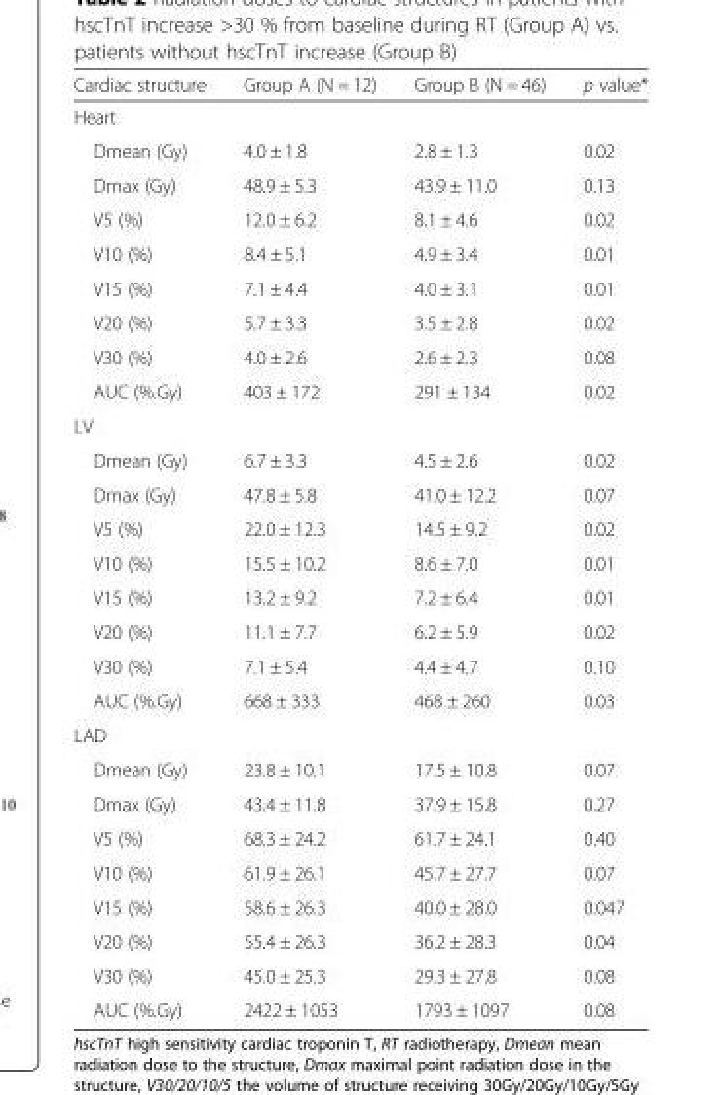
<table><thead><tr><td>Cardiac structure</td><td>Group A (N = 12)</td><td>Group B (N = 46)</td><td>p value*</td></tr></thead><tbody><tr><td colspan="4">Heart</td></tr><tr><td>Dmean (Gy)</td><td>4.0 ± 1.8</td><td>2.8 ± 1.3</td><td>0.02</td></tr><tr><td>Dmax (Gy)</td><td>48.9 ± 5.3</td><td>43.9 ± 11.0</td><td>0.13</td></tr><tr><td>V5 (%)</td><td>12.0 ± 6.2</td><td>8.1 ± 4.6</td><td>0.02</td></tr><tr><td>V10 (%)</td><td>8.4 ± 5.1</td><td>4.9 ± 3.4</td><td>0.01</td></tr><tr><td>V15 (%)</td><td>7.1 ± 4.4</td><td>4.0 ± 3.1</td><td>0.01</td></tr><tr><td>V20 (%)</td><td>5.7 ± 3.3</td><td>3.5 ± 2.8</td><td>0.02</td></tr><tr><td>V30 (%)</td><td>4.0 ± 2.6</td><td>2.6 ± 2.3</td><td>0.08</td></tr><tr><td>AUC (%.Gy)</td><td>403 ± 172</td><td>291 ± 134</td><td>0.02</td></tr><tr><td colspan="4">LV</td></tr><tr><td>Dmean (Gy)</td><td>6.7 ± 3.3</td><td>4.5 ± 2.6</td><td>0.02</td></tr><tr><td>Dmax (Gy)</td><td>47.8 ± 5.8</td><td>41.0 ± 12.2</td><td>0.07</td></tr><tr><td>V5 (%)</td><td>22.0 ± 12.3</td><td>14.5 ± 9.2</td><td>0.02</td></tr><tr><td>V10 (%)</td><td>15.5 ± 10.2</td><td>8.6 ± 7.0</td><td>0.01</td></tr><tr><td>V15 (%)</td><td>13.2 ± 9.2</td><td>7.2 ± 6.4</td><td>0.01</td></tr><tr><td>V20 (%)</td><td>11.1 ± 7.7</td><td>6.2 ± 5.9</td><td>0.02</td></tr><tr><td>V30 (%)</td><td>7.1 ± 5.4</td><td>4.4 ± 4.7</td><td>0.10</td></tr><tr><td>AUC (%.Gy)</td><td>668 ± 333</td><td>468 ± 260</td><td>0.03</td></tr><tr><td colspan="4">LAD</td></tr><tr><td>Dmean (Gy)</td><td>23.8 ± 10.1</td><td>17.5 ± 10.8</td><td>0.07</td></tr><tr><td>Dmax (Gy)</td><td>43.4 ± 11.8</td><td>37.9 ± 15.8</td><td>0.27</td></tr><tr><td>V5 (%)</td><td>68.3 ± 24.2</td><td>61.7 ± 24.1</td><td>0.40</td></tr><tr><td>V10 (%)</td><td>61.9 ± 26.1</td><td>45.7 ± 27.7</td><td>0.07</td></tr><tr><td>V15 (%)</td><td>58.6 ± 26.3</td><td>40.0 ± 28.0</td><td>0.047</td></tr><tr><td>V20 (%)</td><td>55.4 ± 26.3</td><td>36.2 ± 28.3</td><td>0.04</td></tr><tr><td>V30 (%)</td><td>45.0 ± 25.3</td><td>29.3 ± 27.8</td><td>0.08</td></tr><tr><td>AUC (%.Gy)</td><td>2422 ± 1053</td><td>1793 ± 1097</td><td>0.08</td></tr></tbody></table>